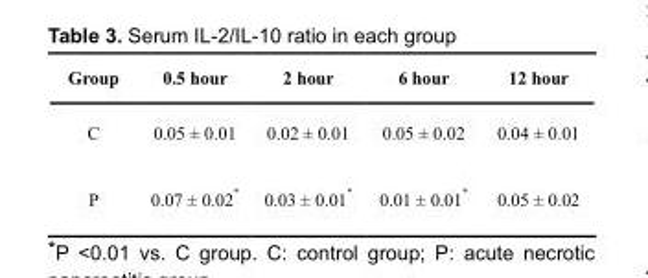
<table><thead><tr><td>Group</td><td>0.5 hour</td><td>2 hour</td><td>6 hour</td><td>12 hour</td></tr></thead><tbody><tr><td>C</td><td>0.05 ± 0.01</td><td>0.02 ± 0.01</td><td>0.05 ± 0.02</td><td>0.04 ± 0.01</td></tr><tr><td>P</td><td>0.07 ± 0.02 *</td><td>0.03 ± 0.01 *</td><td>0.01 ± 0.01 *</td><td>0.05 ± 0.02</td></tr></tbody></table>